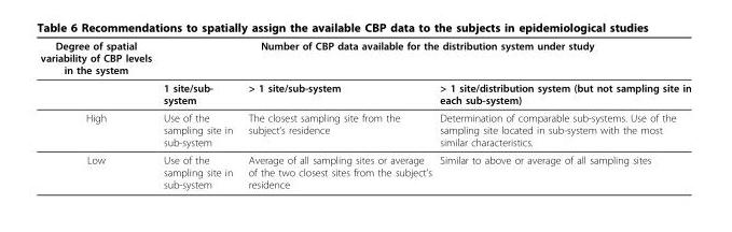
<table><thead><tr><td rowspan="2">Degree of spatial variability of CBP levels in the system</td><td colspan="3">Number of CBP data available for the distribution system under study</td></tr><tr><td>1 site/sub- system</td><td>&gt; 1 site/sub-system</td><td>&gt; 1 site/distribution system (but not sampling site in each sub-system)</td></tr></thead><tbody><tr><td>High</td><td>Use of the sampling site in sub-system</td><td>The closest sampling site from the subject’s residence</td><td>Determination of comparable sub-systems. Use of the sampling site located in sub-system with the most similar characteristics.</td></tr><tr><td>Low</td><td>Use of the sampling site in sub-system</td><td>Average of all sampling sites or average of the two closest sites from the subject’s residence</td><td>Similar to above or average of all sampling sites</td></tr></tbody></table>